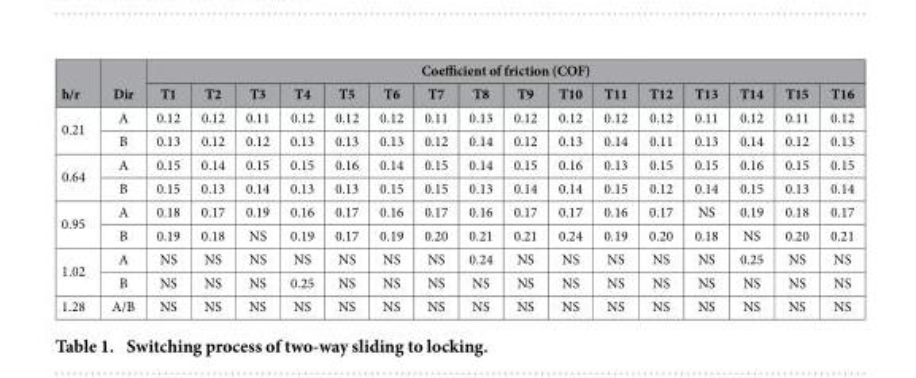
<table><thead><tr><td rowspan="2">h/r</td><td rowspan="2">Dir</td><td colspan="16">Coefficient of friction (COF)</td></tr><tr><td>T1</td><td>T2</td><td>T3</td><td>T4</td><td>T5</td><td>T6</td><td>T7</td><td>T8</td><td>T9</td><td>T10</td><td>T11</td><td>T12</td><td>T13</td><td>T14</td><td>T15</td><td>T16</td></tr></thead><tbody><tr><td rowspan="2">0.21</td><td>A</td><td>0.12</td><td>0.12</td><td>0.11</td><td>0.12</td><td>0.12</td><td>0.12</td><td>0.11</td><td>0.13</td><td>0.12</td><td>0.12</td><td>0.12</td><td>0.12</td><td>0.11</td><td>0.12</td><td>0.11</td><td>0.12</td></tr><tr><td>B</td><td>0.13</td><td>0.12</td><td>0.12</td><td>0.13</td><td>0.13</td><td>0.13</td><td>0.12</td><td>0.14</td><td>0.12</td><td>0.13</td><td>0.14</td><td>0.11</td><td>0.13</td><td>0.14</td><td>0.12</td><td>0.13</td></tr><tr><td rowspan="2">0.64</td><td>A</td><td>0.15</td><td>0.14</td><td>0.15</td><td>0.15</td><td>0.16</td><td>0.14</td><td>0.15</td><td>0.14</td><td>0.15</td><td>0.16</td><td>0.13</td><td>0.15</td><td>0.15</td><td>0.16</td><td>0.15</td><td>0.15</td></tr><tr><td>B</td><td>0.15</td><td>0.13</td><td>0.14</td><td>0.13</td><td>0.13</td><td>0.15</td><td>0.15</td><td>0.13</td><td>0.14</td><td>0.14</td><td>0.15</td><td>0.12</td><td>0.14</td><td>0.15</td><td>0.13</td><td>0.14</td></tr><tr><td rowspan="2">0.95</td><td>A</td><td>0.18</td><td>0.17</td><td>0.19</td><td>0.16</td><td>0.17</td><td>0.16</td><td>0.17</td><td>0.16</td><td>0.17</td><td>0.17</td><td>0.16</td><td>0.17</td><td>NS</td><td>0.19</td><td>0.18</td><td>0.17</td></tr><tr><td>B</td><td>0.19</td><td>0.18</td><td>NS</td><td>0.19</td><td>0.17</td><td>0.19</td><td>0.20</td><td>0.21</td><td>0.21</td><td>0.24</td><td>0.19</td><td>0.20</td><td>0.18</td><td>NS</td><td>0.20</td><td>0.21</td></tr><tr><td rowspan="2">1.02</td><td>A</td><td>NS</td><td>NS</td><td>NS</td><td>NS</td><td>NS</td><td>NS</td><td>NS</td><td>0.24</td><td>NS</td><td>NS</td><td>NS</td><td>NS</td><td>NS</td><td>0.25</td><td>NS</td><td>NS</td></tr><tr><td>B</td><td>NS</td><td>NS</td><td>NS</td><td>0.25</td><td>NS</td><td>NS</td><td>NS</td><td>NS</td><td>NS</td><td>NS</td><td>NS</td><td>NS</td><td>NS</td><td>NS</td><td>NS</td><td>NS</td></tr><tr><td>1.28</td><td>A/B</td><td>NS</td><td>NS</td><td>NS</td><td>NS</td><td>NS</td><td>NS</td><td>NS</td><td>NS</td><td>NS</td><td>NS</td><td>NS</td><td>NS</td><td>NS</td><td>NS</td><td>NS</td><td>NS</td></tr></tbody></table>